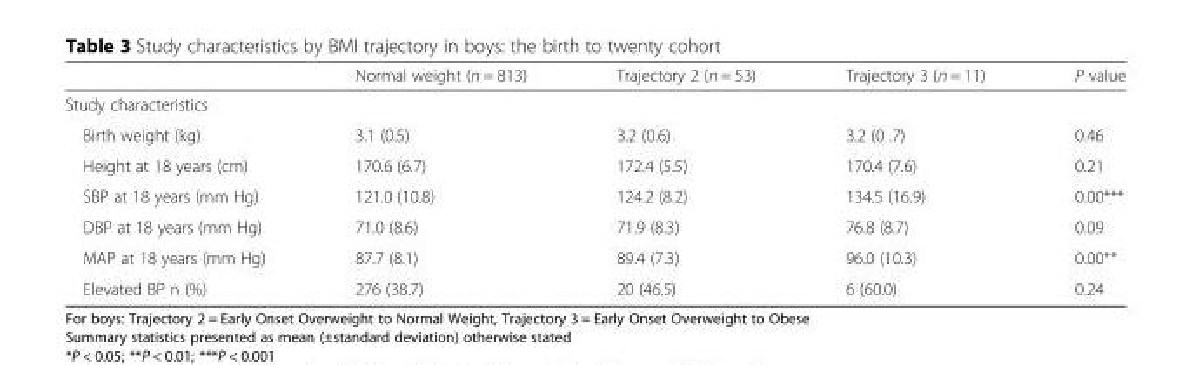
<table><thead><tr><td></td><td>Normal weight (n = 813)</td><td>Trajectory 2 (n = 53)</td><td>Trajectory 3 (n = 11)</td><td>P value</td></tr></thead><tbody><tr><td colspan="5">Study characteristics</td></tr><tr><td>Birth weight (kg)</td><td>3.1 (0.5)</td><td>3.2 (0.6)</td><td>3.2 (0 .7)</td><td>0.46</td></tr><tr><td>Height at 18 years (cm)</td><td>170.6 (6.7)</td><td>172.4 (5.5)</td><td>170.4 (7.6)</td><td>0.21</td></tr><tr><td>SBP at 18 years (mm Hg)</td><td>121.0 (10.8)</td><td>124.2 (8.2)</td><td>134.5 (16.9)</td><td>0.00***</td></tr><tr><td>DBP at 18 years (mm Hg)</td><td>71.0 (8.6)</td><td>71.9 (8.3)</td><td>76.8 (8.7)</td><td>0.09</td></tr><tr><td>MAP at 18 years (mm Hg)</td><td>87.7 (8.1)</td><td>89.4 (7.3)</td><td>96.0 (10.3)</td><td>0.00**</td></tr><tr><td>Elevated BP n (%)</td><td>276 (38.7)</td><td>20 (46.5)</td><td>6 (60.0)</td><td>0.24</td></tr></tbody></table>